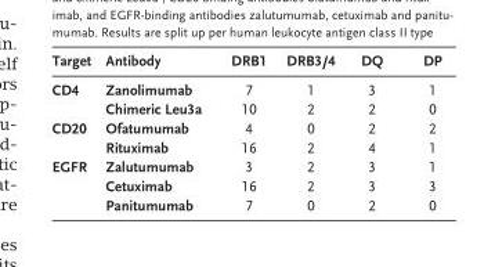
<table><thead><tr><td>Target</td><td>Antibody</td><td>DRB1</td><td>DRB3/4</td><td>DQ</td><td>DP</td></tr></thead><tbody><tr><td rowspan="2">CD4</td><td>Zanolimumab</td><td>7</td><td>1</td><td>3</td><td>1</td></tr><tr><td>Chimeric Leu3a</td><td>10</td><td>2</td><td>2</td><td>0</td></tr><tr><td rowspan="2">CD20</td><td>Ofatumumab</td><td>4</td><td>0</td><td>2</td><td>2</td></tr><tr><td>Rituximab</td><td>16</td><td>2</td><td>4</td><td>1</td></tr><tr><td rowspan="3">EGFR</td><td>Zalutumumab</td><td>3</td><td>2</td><td>3</td><td>1</td></tr><tr><td>Cetuximab</td><td>16</td><td>2</td><td>3</td><td>3</td></tr><tr><td>Panitumumab</td><td>7</td><td>0</td><td>2</td><td>0</td></tr></tbody></table>